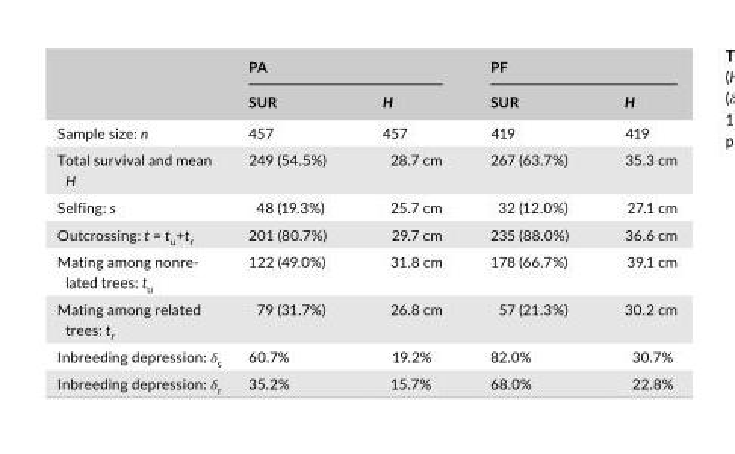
<table><thead><tr><td rowspan="2"></td><td colspan="2">PA</td><td colspan="2">PF</td></tr><tr><td>SUR</td><td>H</td><td>SUR</td><td>H</td></tr></thead><tbody><tr><td>Sample size: n</td><td>457</td><td>457</td><td>419</td><td>419</td></tr><tr><td>Total survival and mean H</td><td>249 (54.5%)</td><td>28.7 cm</td><td>267 (63.7%)</td><td>35.3 cm</td></tr><tr><td>Selfing: s</td><td>48 (19.3%)</td><td>25.7 cm</td><td>32 (12.0%)</td><td>27.1 cm</td></tr><tr><td>Outcrossing: t = t<sub>u</sub>+t<sub>r</sub></td><td>201 (80.7%)</td><td>29.7 cm</td><td>235 (88.0%)</td><td>36.6 cm</td></tr><tr><td>Mating among nonre- lated trees: tu</td><td>122 (49.0%)</td><td>31.8 cm</td><td>178 (66.7%)</td><td>39.1 cm</td></tr><tr><td>Mating among related trees: t<sub>r</sub></td><td>79 (31.7%)</td><td>26.8 cm</td><td>57 (21.3%)</td><td>30.2 cm</td></tr><tr><td>Inbreeding depression: δ<sub>s</sub></td><td>60.7%</td><td>19.2%</td><td>82.0%</td><td>30.7%</td></tr><tr><td>Inbreeding depression: δ<sub>r</sub></td><td>35.2%</td><td>15.7%</td><td>68.0%</td><td>22.8%</td></tr></tbody></table>